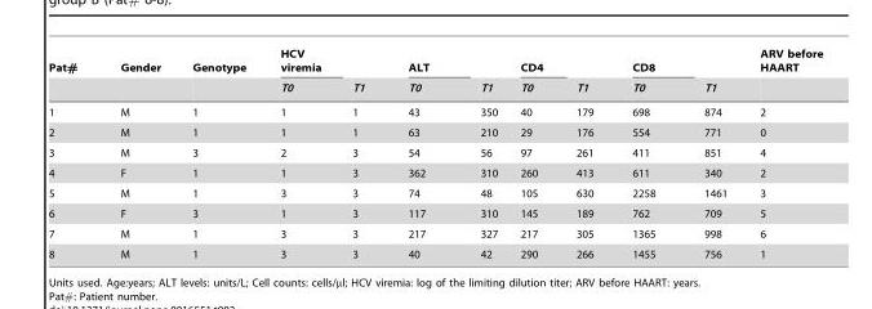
<table><thead><tr><td rowspan="2">Pat#</td><td rowspan="2">Gender</td><td rowspan="2">Genotype</td><td rowspan="2">HCV viremia T0</td><td rowspan="2">T1</td><td rowspan="2">ALT T0</td><td rowspan="2">T1</td><td rowspan="2">CD4 T0</td><td rowspan="2">T1</td><td rowspan="2">CD8 T0</td><td rowspan="2">T1</td><td rowspan="2">ARV before HAART</td></tr><tr></tr></thead><tbody><tr><td>1</td><td>M</td><td>1</td><td>1</td><td>1</td><td>43</td><td>350</td><td>40</td><td>179</td><td>698</td><td>874</td><td>2</td></tr><tr><td>2</td><td>M</td><td>1</td><td>1</td><td>1</td><td>63</td><td>210</td><td>29</td><td>176</td><td>554</td><td>771</td><td>0</td></tr><tr><td>3</td><td>M</td><td>3</td><td>2</td><td>3</td><td>54</td><td>56</td><td>97</td><td>261</td><td>411</td><td>851</td><td>4</td></tr><tr><td>4</td><td>F</td><td>1</td><td>1</td><td>3</td><td>362</td><td>310</td><td>260</td><td>413</td><td>611</td><td>340</td><td>2</td></tr><tr><td>5</td><td>M</td><td>1</td><td>3</td><td>3</td><td>74</td><td>48</td><td>105</td><td>630</td><td>2258</td><td>1461</td><td>3</td></tr><tr><td>6</td><td>F</td><td>3</td><td>1</td><td>3</td><td>117</td><td>310</td><td>145</td><td>189</td><td>762</td><td>709</td><td>5</td></tr><tr><td>7</td><td>M</td><td>1</td><td>3</td><td>3</td><td>217</td><td>327</td><td>217</td><td>305</td><td>1365</td><td>998</td><td>6</td></tr><tr><td>8</td><td>M</td><td>1</td><td>3</td><td>3</td><td>40</td><td>42</td><td>290</td><td>266</td><td>1455</td><td>756</td><td>1</td></tr></tbody></table>